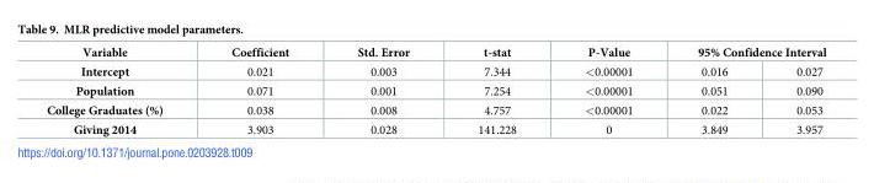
<table><thead><tr><td rowspan="2">Variable Intercept</td><td rowspan="2">Coefficient 0.021</td><td rowspan="2">Std. Error 0.003</td><td rowspan="2">t-stat 7.344</td><td rowspan="2">P-Value &lt;0.00001</td><td colspan="2">95% Confidence Interval</td></tr><tr><td>0.016</td><td>0.027</td></tr></thead><tbody><tr><td>Population</td><td>0.071</td><td>0.001</td><td>7.254</td><td>&lt;0.00001</td><td>0.051</td><td>0.090</td></tr><tr><td>College Graduates (%)</td><td>0.038</td><td>0.008</td><td>4.757</td><td>&lt;0.00001</td><td>0.022</td><td>0.053</td></tr><tr><td>Giving 2014</td><td>3.903</td><td>0.028</td><td>141.228</td><td>0</td><td>3.849</td><td>3.957</td></tr></tbody></table>